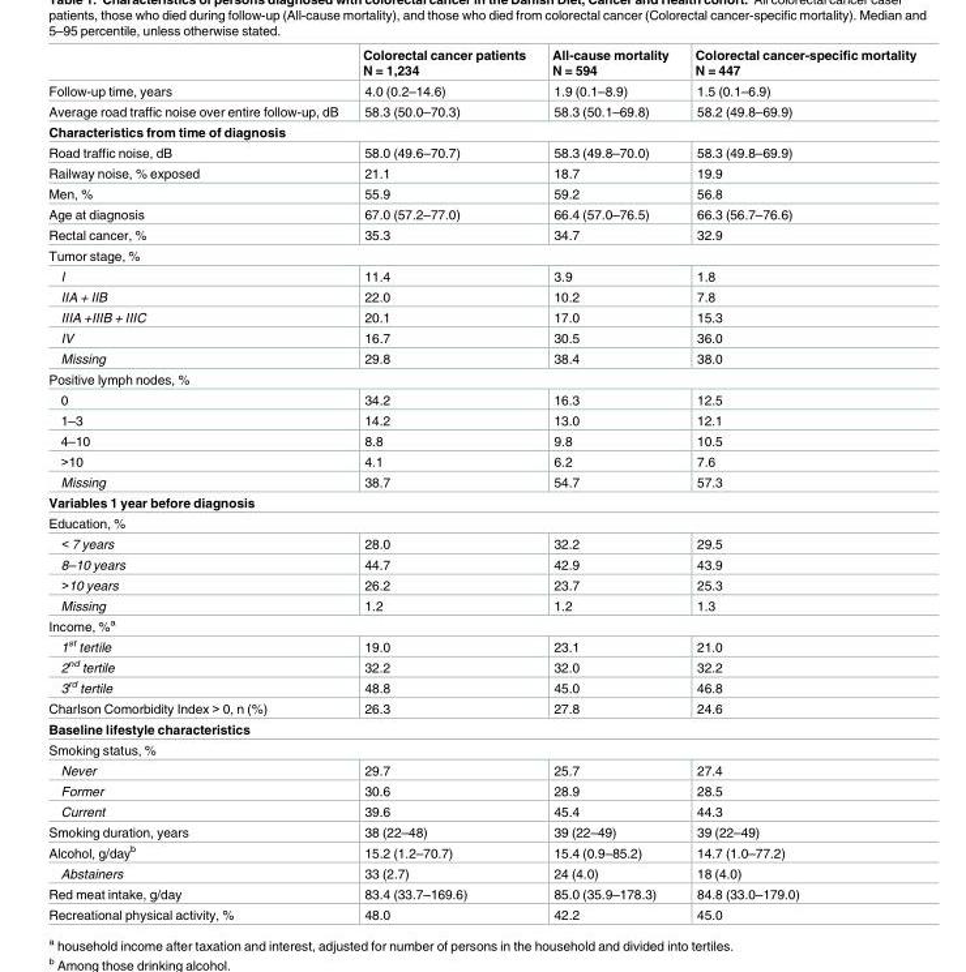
<table><thead><tr><td></td><td>Colorectal cancer patients N = 1,234</td><td>All-cause mortality N = 594</td><td>Colorectal cancer-specific mortality N = 447</td></tr></thead><tbody><tr><td>Follow-up time, years</td><td>4.0 (0.2–14.6)</td><td>1.9 (0.1–8.9)</td><td>1.5 (0.1–6.9)</td></tr><tr><td>Average road traffic noise over entire follow-up, dB</td><td>58.3 (50.0–70.3)</td><td>58.3 (50.1–69.8)</td><td>58.2 (49.8–69.9)</td></tr><tr><td colspan="4">Characteristics from time of diagnosis</td></tr><tr><td>Road traffic noise, dB</td><td>58.0 (49.6–70.7)</td><td>58.3 (49.8–70.0)</td><td>58.3 (49.8–69.9)</td></tr><tr><td>Railway noise, % exposed</td><td>21.1</td><td>18.7</td><td>19.9</td></tr><tr><td>Men, %</td><td>55.9</td><td>59.2</td><td>56.8</td></tr><tr><td>Age at diagnosis</td><td>67.0 (57.2–77.0)</td><td>66.4 (57.0–76.5)</td><td>66.3 (56.7–76.6)</td></tr><tr><td>Rectal cancer, %</td><td>35.3</td><td>34.7</td><td>32.9</td></tr><tr><td colspan="4">Tumor stage, %</td></tr><tr><td>I</td><td>11.4</td><td>3.9</td><td>1.8</td></tr><tr><td>IIA + IIB</td><td>22.0</td><td>10.2</td><td>7.8</td></tr><tr><td>IIIA +IIIB + IIIC</td><td>20.1</td><td>17.0</td><td>15.3</td></tr><tr><td>IV</td><td>16.7</td><td>30.5</td><td>36.0</td></tr><tr><td>Missing</td><td>29.8</td><td>38.4</td><td>38.0</td></tr><tr><td colspan="4">Positive lymph nodes, %</td></tr><tr><td>0</td><td>34.2</td><td>16.3</td><td>12.5</td></tr><tr><td>1–3</td><td>14.2</td><td>13.0</td><td>12.1</td></tr><tr><td>4–10</td><td>8.8</td><td>9.8</td><td>10.5</td></tr><tr><td>&gt;10</td><td>4.1</td><td>6.2</td><td>7.6</td></tr><tr><td>Missing</td><td>38.7</td><td>54.7</td><td>57.3</td></tr><tr><td colspan="4">Variables 1 year before diagnosis</td></tr><tr><td colspan="4">Education, %</td></tr><tr><td>&lt; 7 years</td><td>28.0</td><td>32.2</td><td>29.5</td></tr><tr><td>8–10 years</td><td>44.7</td><td>42.9</td><td>43.9</td></tr><tr><td>&gt;10 years</td><td>26.2</td><td>23.7</td><td>25.3</td></tr><tr><td>Missing</td><td>1.2</td><td>1.2</td><td>1.3</td></tr><tr><td colspan="4">Income, %<sup>a</sup></td></tr><tr><td>1<sup>st</sup> tertile</td><td>19.0</td><td>23.1</td><td>21.0</td></tr><tr><td>2<sup>nd</sup> tertile</td><td>32.2</td><td>32.0</td><td>32.2</td></tr><tr><td>3<sup>rd</sup> tertile</td><td>48.8</td><td>45.0</td><td>46.8</td></tr><tr><td>Charlson Comorbidity Index &gt; 0, n (%)</td><td>26.3</td><td>27.8</td><td>24.6</td></tr><tr><td colspan="4">Baseline lifestyle characteristics</td></tr><tr><td colspan="4">Smoking status, %</td></tr><tr><td>Never</td><td>29.7</td><td>25.7</td><td>27.4</td></tr><tr><td>Former</td><td>30.6</td><td>28.9</td><td>28.5</td></tr><tr><td>Current</td><td>39.6</td><td>45.4</td><td>44.3</td></tr><tr><td>Smoking duration, years</td><td>38 (22–48)</td><td>39 (22–49)</td><td>39 (22–49)</td></tr><tr><td>Alcohol, g/day<sup>b</sup></td><td>15.2 (1.2–70.7)</td><td>15.4 (0.9–85.2)</td><td>14.7 (1.0–77.2)</td></tr><tr><td>Abstainers</td><td>33 (2.7)</td><td>24 (4.0)</td><td>18 (4.0)</td></tr><tr><td>Red meat intake, g/day</td><td>83.4 (33.7–169.6)</td><td>85.0 (35.9–178.3)</td><td>84.8 (33.0–179.0)</td></tr><tr><td>Recreational physical activity, %</td><td>48.0</td><td>42.2</td><td>45.0</td></tr></tbody></table>